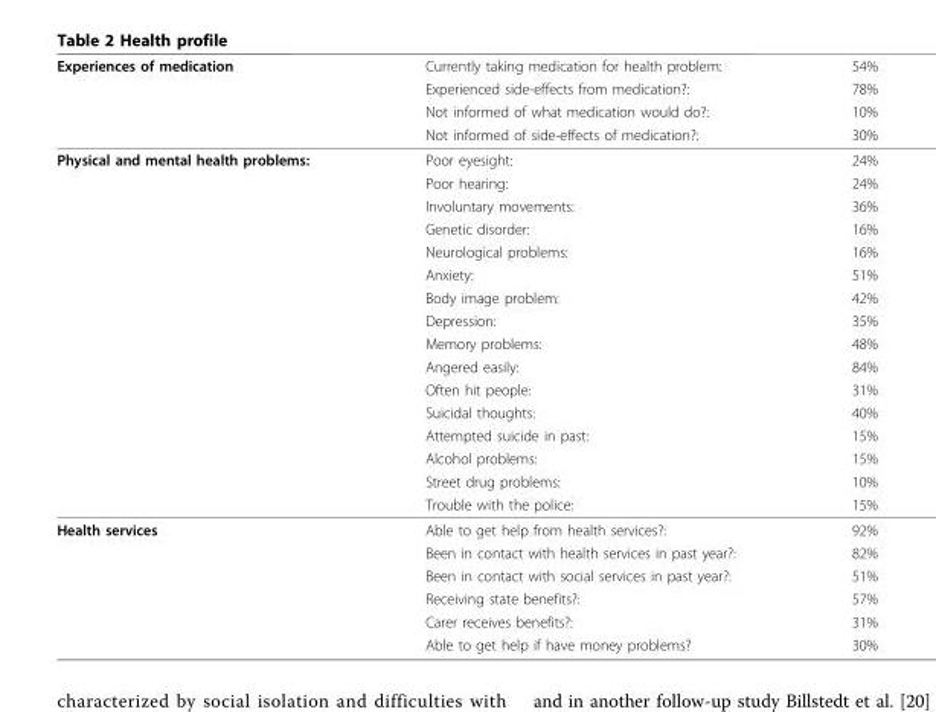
<table><thead><tr><td rowspan="4">Experiences of medication</td><td rowspan="4">Currently taking medication for health problem: Experienced side-effects from medication?: Not informed of what medication would do?: Not informed of side-effects of medication?:</td><td rowspan="4">54% 78% 10% 30%</td></tr><tr></tr><tr></tr><tr></tr></thead><tbody><tr><td rowspan="16">Physical and mental health problems:</td><td>Poor eyesight:</td><td>24%</td></tr><tr><td>Poor hearing:</td><td>24%</td></tr><tr><td>Involuntary movements:</td><td>36%</td></tr><tr><td>Genetic disorder:</td><td>16%</td></tr><tr><td>Neurological problems:</td><td>16%</td></tr><tr><td>Anxiety:</td><td>51%</td></tr><tr><td>Body image problem:</td><td>42%</td></tr><tr><td>Depression:</td><td>35%</td></tr><tr><td>Memory problems:</td><td>48%</td></tr><tr><td>Angered easily:</td><td>84%</td></tr><tr><td>Often hit people:</td><td>31%</td></tr><tr><td>Suicidal thoughts:</td><td>40%</td></tr><tr><td>Attempted suicide in past:</td><td>15%</td></tr><tr><td>Alcohol problems:</td><td>15%</td></tr><tr><td>Street drug problems:</td><td>10%</td></tr><tr><td>Trouble with the police:</td><td>15%</td></tr><tr><td rowspan="6">Health services</td><td>Able to get help from health services?:</td><td>92%</td></tr><tr><td>Been in contact with health services in past year?:</td><td>82%</td></tr><tr><td>Been in contact with social services in past year?:</td><td>51%</td></tr><tr><td>Receiving state benefits?:</td><td>57%</td></tr><tr><td>Carer receives benefits?:</td><td>31%</td></tr><tr><td>Able to get help if have money problems?</td><td>30%</td></tr></tbody></table>